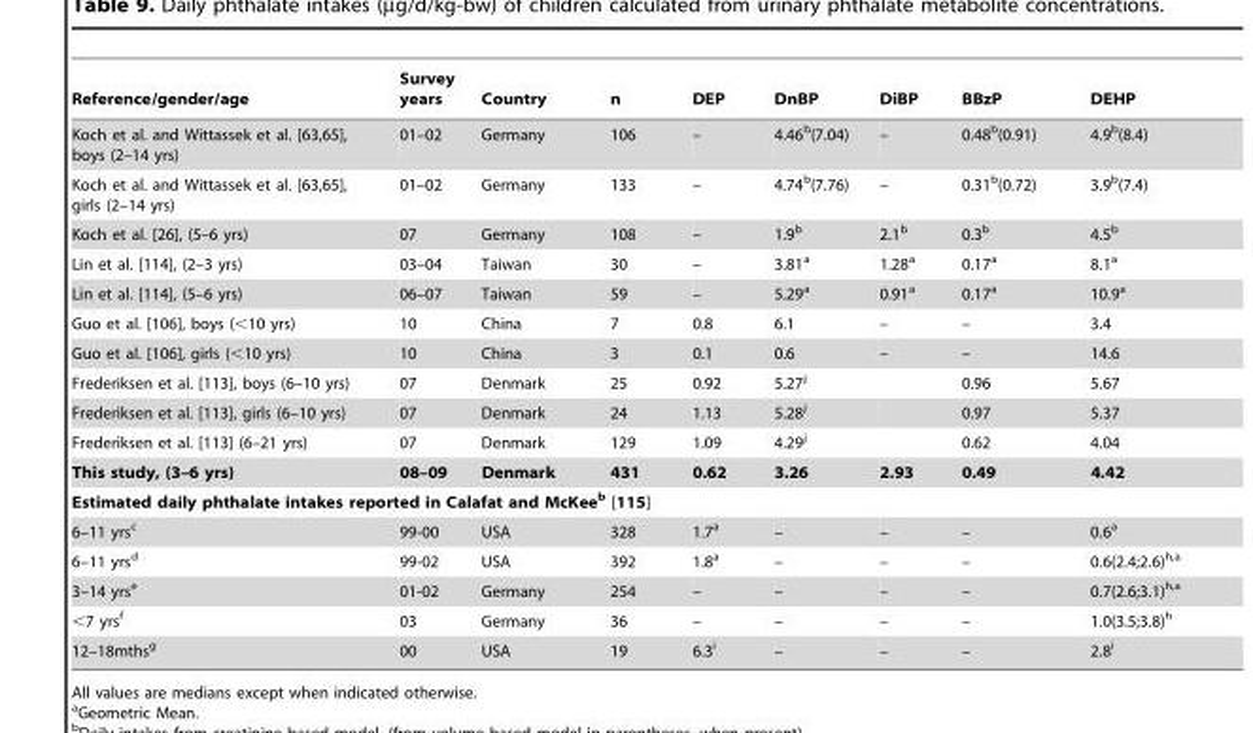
<table><thead><tr><td>Reference/gender/age</td><td>Survey years</td><td>Country</td><td>n</td><td>DEP</td><td>DnBP</td><td>DiBP</td><td>BBzP</td><td>DEHP</td></tr></thead><tbody><tr><td>Koch et al. and Wittassek et al. [63,65], boys (2–14 yrs)</td><td>01–02</td><td>Germany</td><td>106</td><td>–</td><td>4.46<sup>b</sup>(7.04)</td><td>–</td><td>0.48<sup>b</sup>(0.91)</td><td>4.9<sup>b</sup>(8.4)</td></tr><tr><td>Koch et al. and Wittassek et al. [63,65], girls (2–14 yrs)</td><td>01–02</td><td>Germany</td><td>133</td><td>–</td><td>4.74<sup>b</sup>(7.76)</td><td>–</td><td>0.31<sup>b</sup>(0.72)</td><td>3.9<sup>b</sup>(7.4)</td></tr><tr><td>Koch et al. [26], (5–6 yrs)</td><td>07</td><td>Germany</td><td>108</td><td>–</td><td>1.9<sup>b</sup></td><td>2.1<sup>b</sup></td><td>0.3<sup>b</sup></td><td>4.5<sup>b</sup></td></tr><tr><td>Lin et al. [114], (2–3 yrs)</td><td>03–04</td><td>Taiwan</td><td>30</td><td>–</td><td>3.81<sup>a</sup></td><td>1.28<sup>a</sup></td><td>0.17<sup>a</sup></td><td>8.1<sup>a</sup></td></tr><tr><td>Lin et al. [114], (5–6 yrs)</td><td>06–07</td><td>Taiwan</td><td>59</td><td>–</td><td>5.29<sup>a</sup></td><td>0.91<sup>a</sup></td><td>0.17<sup>a</sup></td><td>10.9<sup>a</sup></td></tr><tr><td>Guo et al. [106], boys (&lt;10 yrs)</td><td>10</td><td>China</td><td>7</td><td>0.8</td><td>6.1</td><td>–</td><td>–</td><td>3.4</td></tr><tr><td>Guo et al. [106], girls (&lt;10 yrs)</td><td>10</td><td>China</td><td>3</td><td>0.1</td><td>0.6</td><td>–</td><td>–</td><td>14.6</td></tr><tr><td>Frederiksen et al. [113], boys (6–10 yrs)</td><td>07</td><td>Denmark</td><td>25</td><td>0.92</td><td>5.27<sup>j</sup></td><td></td><td>0.96</td><td>5.67</td></tr><tr><td>Frederiksen et al. [113], girls (6–10 yrs)</td><td>07</td><td>Denmark</td><td>24</td><td>1.13</td><td>5.28<sup>j</sup></td><td></td><td>0.97</td><td>5.37</td></tr><tr><td>Frederiksen et al. [113] (6–21 yrs)</td><td>07</td><td>Denmark</td><td>129</td><td>1.09</td><td>4.29<sup>j</sup></td><td></td><td>0.62</td><td>4.04</td></tr><tr><td>This study, (3–6 yrs)</td><td>08–09</td><td>Denmark</td><td>431</td><td>0.62</td><td>3.26</td><td>2.93</td><td>0.49</td><td>4.42</td></tr><tr><td colspan="9">Estimated daily phthalate intakes reported in Calafat and McKeeb [115]</td></tr><tr><td>6–11 yrs<sup>c</sup></td><td>99-00</td><td>USA</td><td>328</td><td>1.7<sup>a</sup></td><td>–</td><td>–</td><td>–</td><td>0.6<sup>a</sup></td></tr><tr><td>6–11 yrs<sup>d</sup></td><td>99-02</td><td>USA</td><td>392</td><td>1.8<sup>a</sup></td><td>–</td><td>–</td><td>–</td><td>0.6(2.4;2.6)h,a</td></tr><tr><td>3–14 yrs<sup>e</sup></td><td>01-02</td><td>Germany</td><td>254</td><td>–</td><td>–</td><td>–</td><td>–</td><td>0.7(2.6;3.1)h,a</td></tr><tr><td>&lt;7 yrs<sup>f</sup></td><td>03</td><td>Germany</td><td>36</td><td>–</td><td>–</td><td>–</td><td>–</td><td>1.0(3.5;3.8)<sup>h</sup></td></tr><tr><td>12–18mths<sup>g</sup></td><td>00</td><td>USA</td><td>19</td><td>6.3<sup>i</sup></td><td>–</td><td>–</td><td>–</td><td>2.8<sup>i</sup></td></tr></tbody></table>